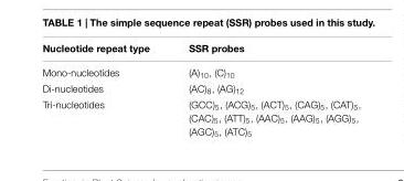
<table><thead><tr><td>Nucleotide repeat type</td><td>SSR probes</td></tr></thead><tbody><tr><td>Mono-nucleotides</td><td>(A)<sub>10</sub>, (C)<sub>10</sub></td></tr><tr><td>Di-nucleotides</td><td>(AC)<sub>8</sub>, (AG)<sub>12</sub></td></tr><tr><td>Tri-nucleotides</td><td>(GCC)<sub>5</sub>, (ACG)<sub>5</sub>, (ACT)<sub>5</sub>, (CAG)<sub>5</sub>, (CAT)<sub>5</sub>, (CAC)<sub>5</sub>, (ATT)<sub>5</sub>, (AAC)<sub>5</sub>, (AAG)<sub>5</sub>, (AGG)<sub>5</sub>, (AGC)<sub>5</sub>, (ATC)<sub>5</sub></td></tr></tbody></table>